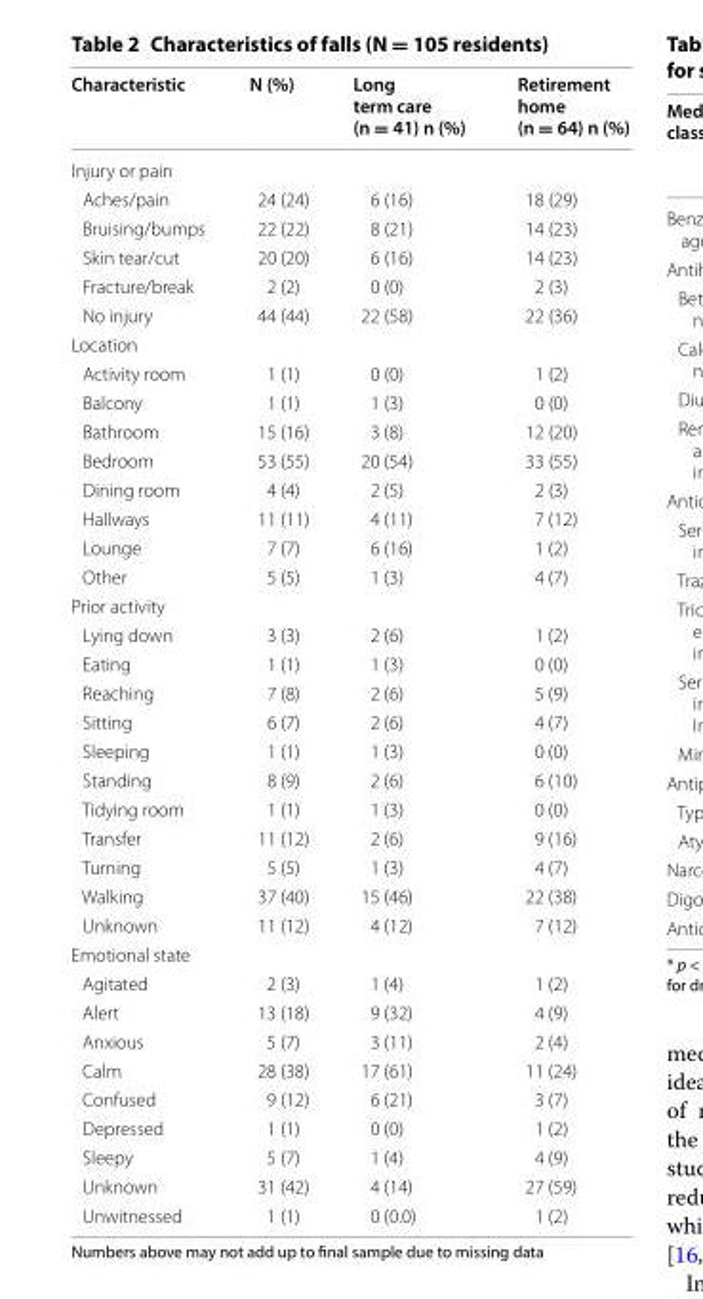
<table><thead><tr><td>Characteristic</td><td>N (%)</td><td>Long term care (n = 41) n (%)</td><td>Retirement home (n = 64) n (%)</td></tr></thead><tbody><tr><td colspan="4">Injury or pain</td></tr><tr><td>Aches/pain</td><td>24 (24)</td><td>6 (16)</td><td>18 (29)</td></tr><tr><td>Bruising/bumps</td><td>22 (22)</td><td>8 (21)</td><td>14 (23)</td></tr><tr><td>Skin tear/cut</td><td>20 (20)</td><td>6 (16)</td><td>14 (23)</td></tr><tr><td>Fracture/break</td><td>2 (2)</td><td>0 (0)</td><td>2 (3)</td></tr><tr><td>No injury</td><td>44 (44)</td><td>22 (58)</td><td>22 (36)</td></tr><tr><td colspan="4">Location</td></tr><tr><td>Activity room</td><td>1 (1)</td><td>0 (0)</td><td>1 (2)</td></tr><tr><td>Balcony</td><td>1 (1)</td><td>1 (3)</td><td>0 (0)</td></tr><tr><td>Bathroom</td><td>15 (16)</td><td>3 (8)</td><td>12 (20)</td></tr><tr><td>Bedroom</td><td>53 (55)</td><td>20 (54)</td><td>33 (55)</td></tr><tr><td>Dining room</td><td>4 (4)</td><td>2 (5)</td><td>2 (3)</td></tr><tr><td>Hallways</td><td>11 (11)</td><td>4 (11)</td><td>7 (12)</td></tr><tr><td>Lounge</td><td>7 (7)</td><td>6 (16)</td><td>1 (2)</td></tr><tr><td>Other</td><td>5 (5)</td><td>1 (3)</td><td>4 (7)</td></tr><tr><td colspan="4">Prior activity</td></tr><tr><td>Lying down</td><td>3 (3)</td><td>2 (6)</td><td>1 (2)</td></tr><tr><td>Eating</td><td>1 (1)</td><td>1 (3)</td><td>0 (0)</td></tr><tr><td>Reaching</td><td>7 (8)</td><td>2 (6)</td><td>5 (9)</td></tr><tr><td>Sitting</td><td>6 (7)</td><td>2 (6)</td><td>4 (7)</td></tr><tr><td>Sleeping</td><td>1 (1)</td><td>1 (3)</td><td>0 (0)</td></tr><tr><td>Standing</td><td>8 (9)</td><td>2 (6)</td><td>6 (10)</td></tr><tr><td>Tidying room</td><td>1 (1)</td><td>1 (3)</td><td>0 (0)</td></tr><tr><td>Transfer</td><td>11 (12)</td><td>2 (6)</td><td>9 (16)</td></tr><tr><td>Turning</td><td>5 (5)</td><td>1 (3)</td><td>4 (7)</td></tr><tr><td>Walking</td><td>37 (40)</td><td>15 (46)</td><td>22 (38)</td></tr><tr><td>Unknown</td><td>11 (12)</td><td>4 (12)</td><td>7 (12)</td></tr><tr><td colspan="4">Emotional state</td></tr><tr><td>Agitated</td><td>2 (3)</td><td>1 (4)</td><td>1 (2)</td></tr><tr><td>Alert</td><td>13 (18)</td><td>9 (32)</td><td>4 (9)</td></tr><tr><td>Anxious</td><td>5 (7)</td><td>3 (11)</td><td>2 (4)</td></tr><tr><td>Calm</td><td>28 (38)</td><td>17 (61)</td><td>11 (24)</td></tr><tr><td>Confused</td><td>9 (12)</td><td>6 (21)</td><td>3 (7)</td></tr><tr><td>Depressed</td><td>1 (1)</td><td>0 (0)</td><td>1 (2)</td></tr><tr><td>Sleepy</td><td>5 (7)</td><td>1 (4)</td><td>4 (9)</td></tr><tr><td>Unknown</td><td>31 (42)</td><td>4 (14)</td><td>27 (59)</td></tr><tr><td>Unwitnessed</td><td>1 (1)</td><td>0 (0.0)</td><td>1 (2)</td></tr></tbody></table>